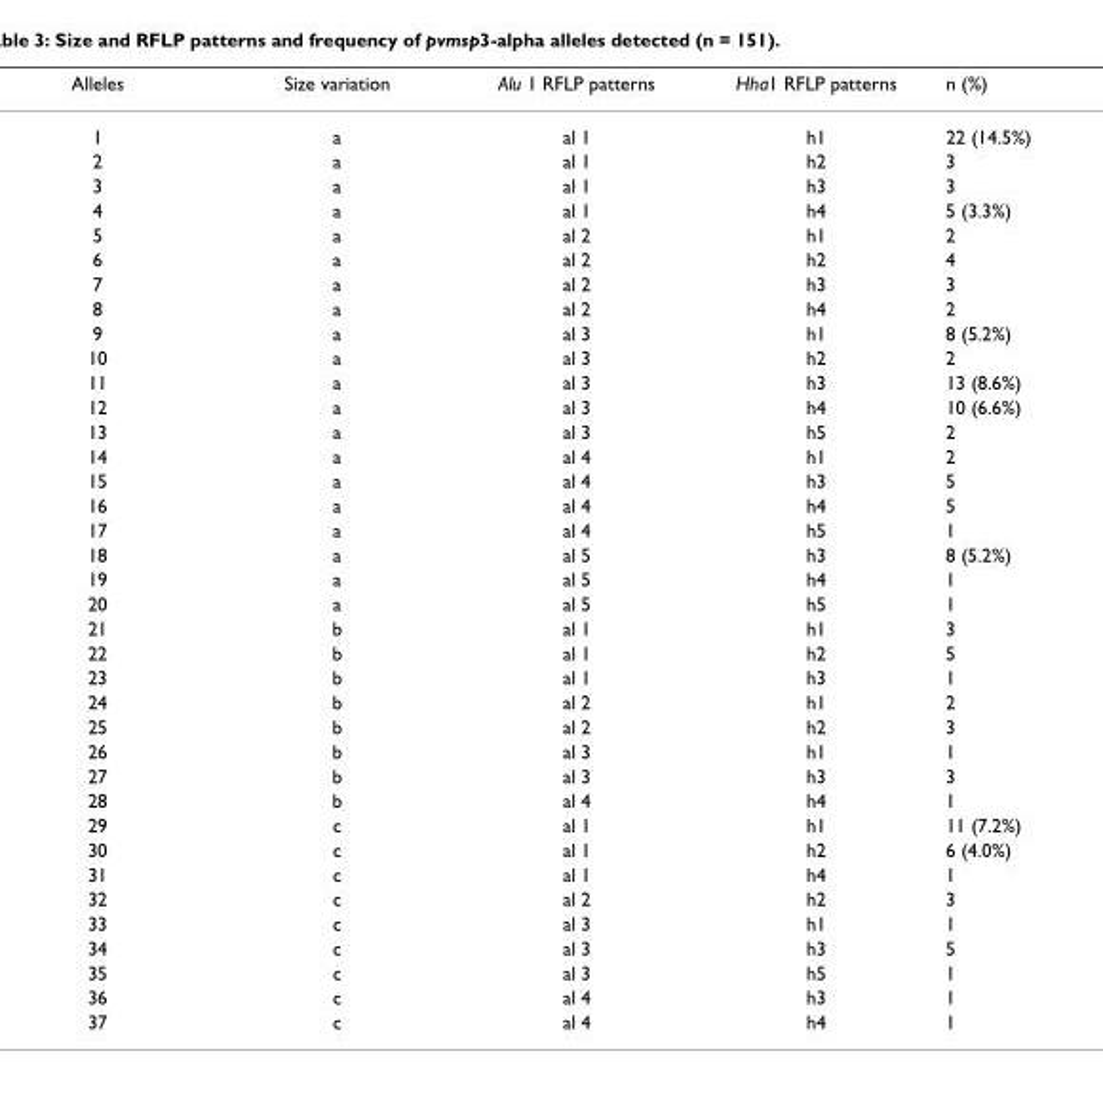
<table><thead><tr><td>Alleles</td><td>Size variation</td><td>Alu 1 RFLP patterns</td><td>Hha1 RFLP patterns</td><td>n (%)</td></tr></thead><tbody><tr><td>1</td><td>a</td><td>al 1</td><td>h1</td><td>22 (14.5%)</td></tr><tr><td>2</td><td>a</td><td>al 1</td><td>h2</td><td>3</td></tr><tr><td>3</td><td>a</td><td>al 1</td><td>h3</td><td>3</td></tr><tr><td>4</td><td>a</td><td>al 1</td><td>h4</td><td>5 (3.3%)</td></tr><tr><td>5</td><td>a</td><td>al 2</td><td>h1</td><td>2</td></tr><tr><td>6</td><td>a</td><td>al 2</td><td>h2</td><td>4</td></tr><tr><td>7</td><td>a</td><td>al 2</td><td>h3</td><td>3</td></tr><tr><td>8</td><td>a</td><td>al 2</td><td>h4</td><td>2</td></tr><tr><td>9</td><td>a</td><td>al 3</td><td>h1</td><td>8 (5.2%)</td></tr><tr><td>10</td><td>a</td><td>al 3</td><td>h2</td><td>2</td></tr><tr><td>11</td><td>a</td><td>al 3</td><td>h3</td><td>13 (8.6%)</td></tr><tr><td>12</td><td>a</td><td>al 3</td><td>h4</td><td>10 (6.6%)</td></tr><tr><td>13</td><td>a</td><td>al 3</td><td>h5</td><td>2</td></tr><tr><td>14</td><td>a</td><td>al 4</td><td>h1</td><td>2</td></tr><tr><td>15</td><td>a</td><td>al 4</td><td>h3</td><td>5</td></tr><tr><td>16</td><td>a</td><td>al 4</td><td>h4</td><td>5</td></tr><tr><td>17</td><td>a</td><td>al 4</td><td>h5</td><td>1</td></tr><tr><td>18</td><td>a</td><td>al 5</td><td>h3</td><td>8 (5.2%)</td></tr><tr><td>19</td><td>a</td><td>al 5</td><td>h4</td><td>1</td></tr><tr><td>20</td><td>a</td><td>al 5</td><td>h5</td><td>1</td></tr><tr><td>21</td><td>b</td><td>al 1</td><td>h1</td><td>3</td></tr><tr><td>22</td><td>b</td><td>al 1</td><td>h2</td><td>5</td></tr><tr><td>23</td><td>b</td><td>al 1</td><td>h3</td><td>1</td></tr><tr><td>24</td><td>b</td><td>al 2</td><td>h1</td><td>2</td></tr><tr><td>25</td><td>b</td><td>al 2</td><td>h2</td><td>3</td></tr><tr><td>26</td><td>b</td><td>al 3</td><td>h1</td><td>1</td></tr><tr><td>27</td><td>b</td><td>al 3</td><td>h3</td><td>3</td></tr><tr><td>28</td><td>b</td><td>al 4</td><td>h4</td><td>1</td></tr><tr><td>29</td><td>c</td><td>al 1</td><td>h1</td><td>11 (7.2%)</td></tr><tr><td>30</td><td>c</td><td>al 1</td><td>h2</td><td>6 (4.0%)</td></tr><tr><td>31</td><td>c</td><td>al 1</td><td>h4</td><td>1</td></tr><tr><td>32</td><td>c</td><td>al 2</td><td>h2</td><td>3</td></tr><tr><td>33</td><td>c</td><td>al 3</td><td>h1</td><td>1</td></tr><tr><td>34</td><td>c</td><td>al 3</td><td>h3</td><td>5</td></tr><tr><td>35</td><td>c</td><td>al 3</td><td>h5</td><td>1</td></tr><tr><td>36</td><td>c</td><td>al 4</td><td>h3</td><td>1</td></tr><tr><td>37</td><td>c</td><td>al 4</td><td>h4</td><td>1</td></tr></tbody></table>